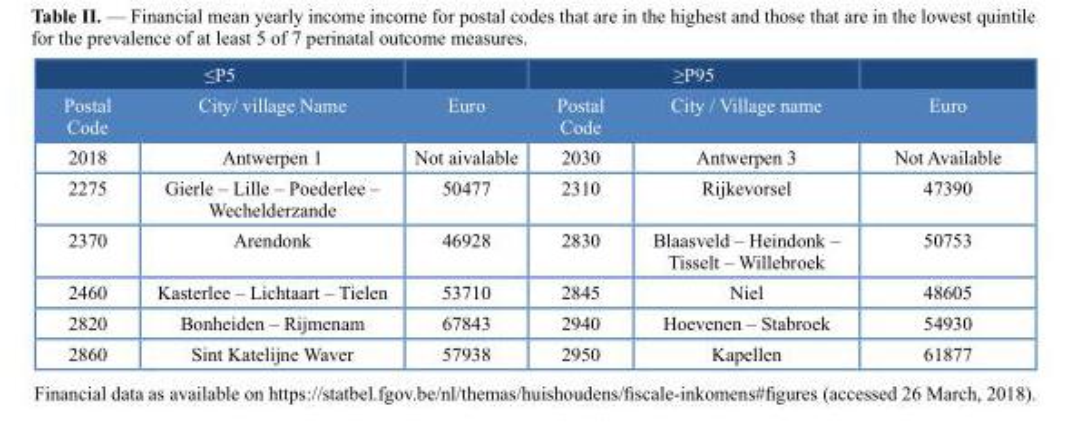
<table><thead><tr><td colspan="2">≤P5</td><td rowspan="2">Euro</td><td colspan="2">≥P95</td><td rowspan="2">Euro</td></tr><tr><td>Postal Code</td><td>City/ village Name</td><td>Postal Code</td><td>City / Village name</td></tr></thead><tbody><tr><td>2018</td><td>Antwerpen 1</td><td>Not aivalable</td><td>2030</td><td>Antwerpen 3</td><td>Not Available</td></tr><tr><td>2275</td><td>Gierle – Lille – Poederlee – Wechelderzande</td><td>50477</td><td>2310</td><td>Rijkevorsel</td><td>47390</td></tr><tr><td>2370</td><td>Arendonk</td><td>46928</td><td>2830</td><td>Blaasveld – Heindonk – Tisselt – Willebroek</td><td>50753</td></tr><tr><td>2460</td><td>Kasterlee – Lichtaart – Tielen</td><td>53710</td><td>2845</td><td>Niel</td><td>48605</td></tr><tr><td>2820</td><td>Bonheiden – Rijmenam</td><td>67843</td><td>2940</td><td>Hoevenen – Stabroek</td><td>54930</td></tr><tr><td>2860</td><td>Sint Katelijne Waver</td><td>57938</td><td>2950</td><td>Kapellen</td><td>61877</td></tr></tbody></table>